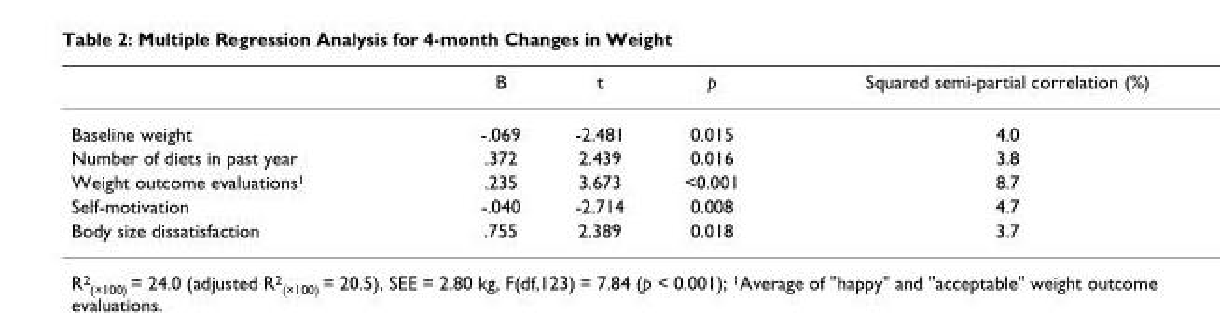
<table><thead><tr><td></td><td>B</td><td>t</td><td>p</td><td>Squared semi-partial correlation (%)</td></tr></thead><tbody><tr><td>Baseline weight</td><td>-.069</td><td>-2.481</td><td>0.015</td><td>4.0</td></tr><tr><td>Number of diets in past year</td><td>.372</td><td>2.439</td><td>0.016</td><td>3.8</td></tr><tr><td>Weight outcome evaluations<sup>1</sup></td><td>.235</td><td>3.673</td><td>&lt;0.001</td><td>8.7</td></tr><tr><td>Self-motivation</td><td>-.040</td><td>-2.714</td><td>0.008</td><td>4.7</td></tr><tr><td>Body size dissatisfaction</td><td>.755</td><td>2.389</td><td>0.018</td><td>3.7</td></tr></tbody></table>